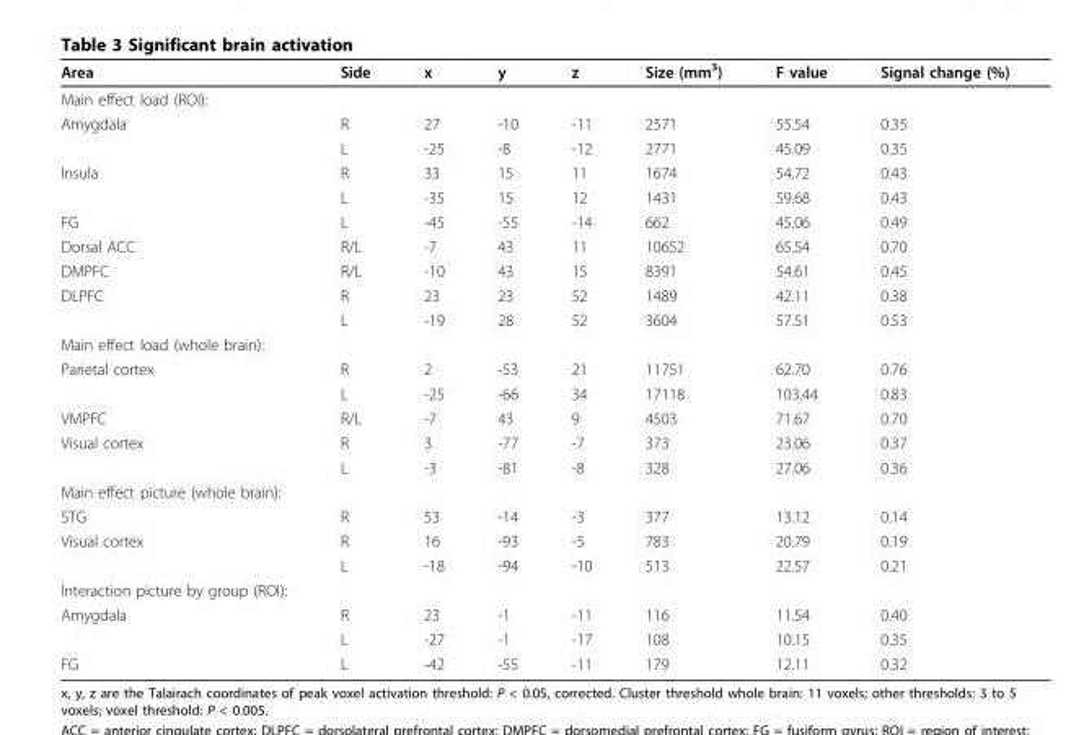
<table><thead><tr><td>Area</td><td>Side</td><td>x</td><td>y</td><td>z</td><td>Size (mm<sup>3</sup>)</td><td>F value</td><td>Signal change (%)</td></tr></thead><tbody><tr><td colspan="8">Main effect load (ROI):</td></tr><tr><td rowspan="2">Amygdala</td><td>R</td><td>27</td><td>-10</td><td>-11</td><td>2571</td><td>55.54</td><td>0.35</td></tr><tr><td>L</td><td>-25</td><td>-8</td><td>-12</td><td>2771</td><td>45.09</td><td>0.35</td></tr><tr><td rowspan="2">Insula</td><td>R</td><td>33</td><td>15</td><td>11</td><td>1674</td><td>54.72</td><td>0.43</td></tr><tr><td>L</td><td>-35</td><td>15</td><td>12</td><td>1431</td><td>59.68</td><td>0.43</td></tr><tr><td>FG</td><td>L</td><td>-45</td><td>-55</td><td>-14</td><td>662</td><td>45.06</td><td>0.49</td></tr><tr><td>Dorsal ACC</td><td>R/L</td><td>-7</td><td>43</td><td>11</td><td>10652</td><td>65.54</td><td>0.70</td></tr><tr><td>DMPFC</td><td>R/L</td><td>-10</td><td>43</td><td>15</td><td>8391</td><td>54.61</td><td>0.45</td></tr><tr><td rowspan="2">DLPFC</td><td>R</td><td>23</td><td>23</td><td>52</td><td>1489</td><td>42.11</td><td>0.38</td></tr><tr><td>L</td><td>-19</td><td>28</td><td>52</td><td>3604</td><td>57.51</td><td>0.53</td></tr><tr><td colspan="8">Main effect load (whole brain):</td></tr><tr><td rowspan="2">Parietal cortex</td><td>R</td><td>2</td><td>-53</td><td>21</td><td>11751</td><td>62.70</td><td>0.76</td></tr><tr><td>L</td><td>-25</td><td>-66</td><td>34</td><td>17118</td><td>103.44</td><td>0.83</td></tr><tr><td>VMPFC</td><td>R/L</td><td>-7</td><td>43</td><td>9</td><td>4503</td><td>71.67</td><td>0.70</td></tr><tr><td rowspan="2">Visual cortex</td><td>R</td><td>3</td><td>-77</td><td>-7</td><td>373</td><td>23.06</td><td>0.37</td></tr><tr><td>L</td><td>-3</td><td>-81</td><td>-8</td><td>328</td><td>27.06</td><td>0.36</td></tr><tr><td colspan="8">Main effect picture (whole brain):</td></tr><tr><td>STG</td><td>R</td><td>53</td><td>-14</td><td>-3</td><td>377</td><td>13.12</td><td>0.14</td></tr><tr><td rowspan="2">Visual cortex</td><td>R</td><td>16</td><td>-93</td><td>-5</td><td>783</td><td>20.79</td><td>0.19</td></tr><tr><td>L</td><td>-18</td><td>-94</td><td>-10</td><td>513</td><td>22.57</td><td>0.21</td></tr><tr><td colspan="8">Interaction picture by group (ROI):</td></tr><tr><td rowspan="2">Amygdala</td><td>R</td><td>23</td><td>-1</td><td>-11</td><td>116</td><td>11.54</td><td>0.40</td></tr><tr><td>L</td><td>-27</td><td>-1</td><td>-17</td><td>108</td><td>10.15</td><td>0.35</td></tr><tr><td>FG</td><td>L</td><td>-42</td><td>-55</td><td>-11</td><td>179</td><td>12.11</td><td>0.32</td></tr></tbody></table>